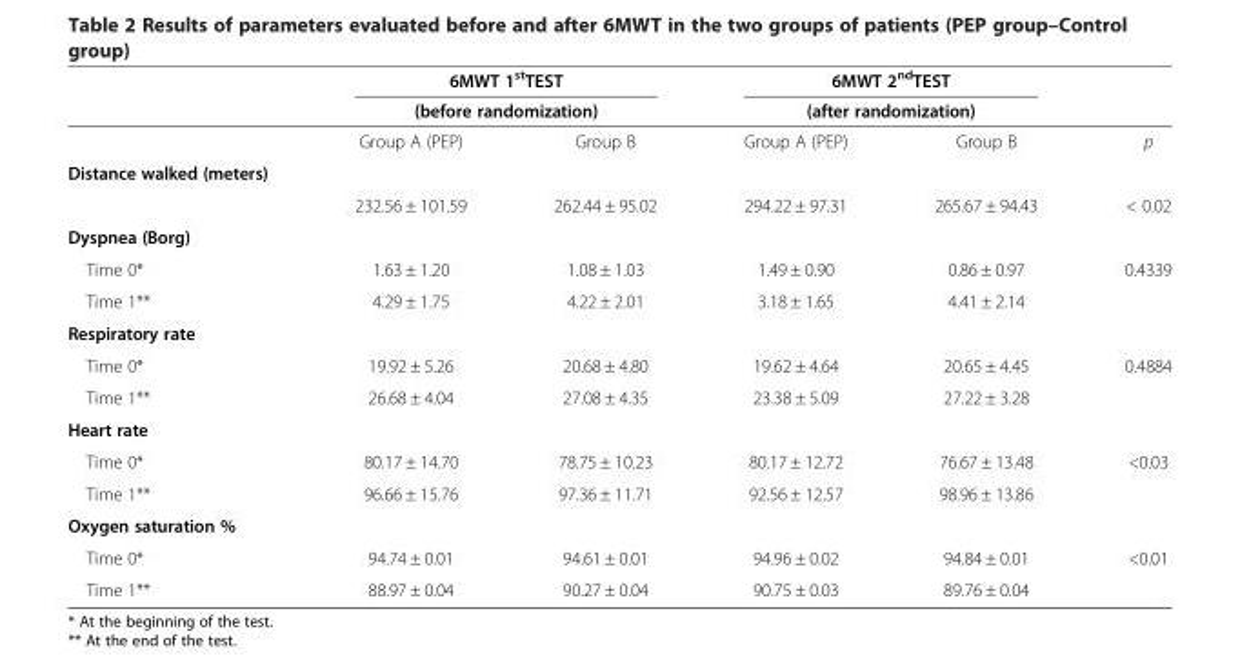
<table><thead><tr><td rowspan="3"></td><td rowspan="2" colspan="2">6MWT 1<sup>st</sup>TEST (before randomization)</td><td rowspan="2" colspan="2">6MWT 2<sup>nd</sup>TEST (after randomization)</td><td rowspan="3">p</td></tr><tr></tr><tr><td>Group A (PEP)</td><td>Group B</td><td>Group A (PEP)</td><td>Group B</td></tr></thead><tbody><tr><td colspan="6">Distance walked (meters)</td></tr><tr><td></td><td>232.56 ± 101.59</td><td>262.44 ± 95.02</td><td>294.22 ± 97.31</td><td>265.67 ± 94.43</td><td>&lt; 0.02</td></tr><tr><td colspan="6">Dyspnea (Borg)</td></tr><tr><td>Time 0*</td><td>1.63 ± 1.20</td><td>1.08 ± 1.03</td><td>1.49 ± 0.90</td><td>0.86 ± 0.97</td><td>0.4339</td></tr><tr><td>Time 1**</td><td>4.29 ± 1.75</td><td>4.22 ± 2.01</td><td>3.18 ± 1.65</td><td>4.41 ± 2.14</td><td></td></tr><tr><td colspan="6">Respiratory rate</td></tr><tr><td>Time 0*</td><td>19.92 ± 5.26</td><td>20.68 ± 4.80</td><td>19.62 ± 4.64</td><td>20.65 ± 4.45</td><td>0.4884</td></tr><tr><td>Time 1**</td><td>26.68 ± 4.04</td><td>27.08 ± 4.35</td><td>23.38 ± 5.09</td><td>27.22 ± 3.28</td><td></td></tr><tr><td colspan="6">Heart rate</td></tr><tr><td>Time 0*</td><td>80.17 ± 14.70</td><td>78.75 ± 10.23</td><td>80.17 ± 12.72</td><td>76.67 ± 13.48</td><td>&lt;0.03</td></tr><tr><td>Time 1**</td><td>96.66 ± 15.76</td><td>97.36 ± 11.71</td><td>92.56 ± 12.57</td><td>98.96 ± 13.86</td><td></td></tr><tr><td colspan="6">Oxygen saturation %</td></tr><tr><td>Time 0*</td><td>94.74 ± 0.01</td><td>94.61 ± 0.01</td><td>94.96 ± 0.02</td><td>94.84 ± 0.01</td><td>&lt;0.01</td></tr><tr><td>Time 1**</td><td>88.97 ± 0.04</td><td>90.27 ± 0.04</td><td>90.75 ± 0.03</td><td>89.76 ± 0.04</td><td></td></tr></tbody></table>